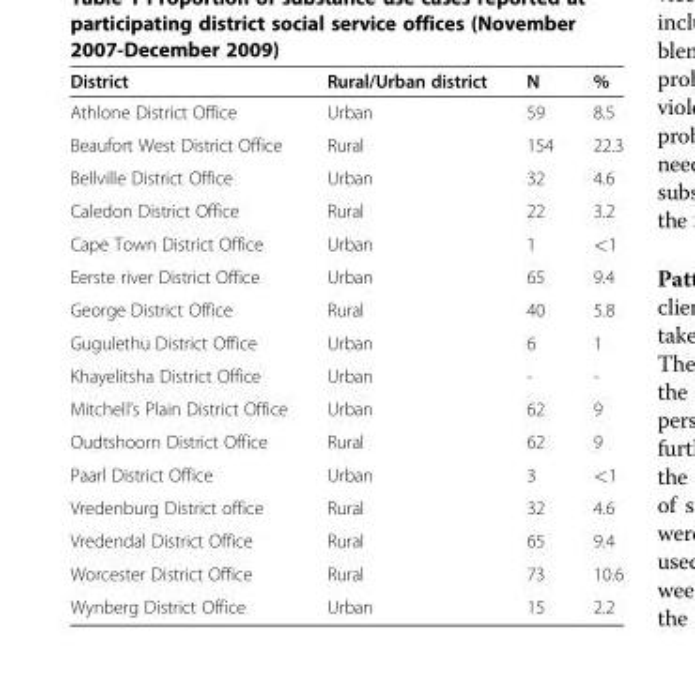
<table><thead><tr><td>District</td><td>Rural/Urban district</td><td>N</td><td>%</td></tr></thead><tbody><tr><td>Athlone District Office</td><td>Urban</td><td>59</td><td>8.5</td></tr><tr><td>Beaufort West District Office</td><td>Rural</td><td>154</td><td>22.3</td></tr><tr><td>Bellville District Office</td><td>Urban</td><td>32</td><td>4.6</td></tr><tr><td>Caledon District Office</td><td>Rural</td><td>22</td><td>3.2</td></tr><tr><td>Cape Town District Office</td><td>Urban</td><td>1</td><td>&lt;1</td></tr><tr><td>Eerste river District Office</td><td>Urban</td><td>65</td><td>9.4</td></tr><tr><td>George District Office</td><td>Rural</td><td>40</td><td>5.8</td></tr><tr><td>Gugulethu District Office</td><td>Urban</td><td>6</td><td>1</td></tr><tr><td>Khayelitsha District Office</td><td>Urban</td><td>-</td><td>-</td></tr><tr><td>Mitchell’s Plain District Office</td><td>Urban</td><td>62</td><td>9</td></tr><tr><td>Oudtshoorn District Office</td><td>Rural</td><td>62</td><td>9</td></tr><tr><td>Paarl District Office</td><td>Urban</td><td>3</td><td>&lt;1</td></tr><tr><td>Vredenburg District office</td><td>Rural</td><td>32</td><td>4.6</td></tr><tr><td>Vredendal District Office</td><td>Rural</td><td>65</td><td>9.4</td></tr><tr><td>Worcester District Office</td><td>Rural</td><td>73</td><td>10.6</td></tr><tr><td>Wynberg District Office</td><td>Urban</td><td>15</td><td>2.2</td></tr></tbody></table>